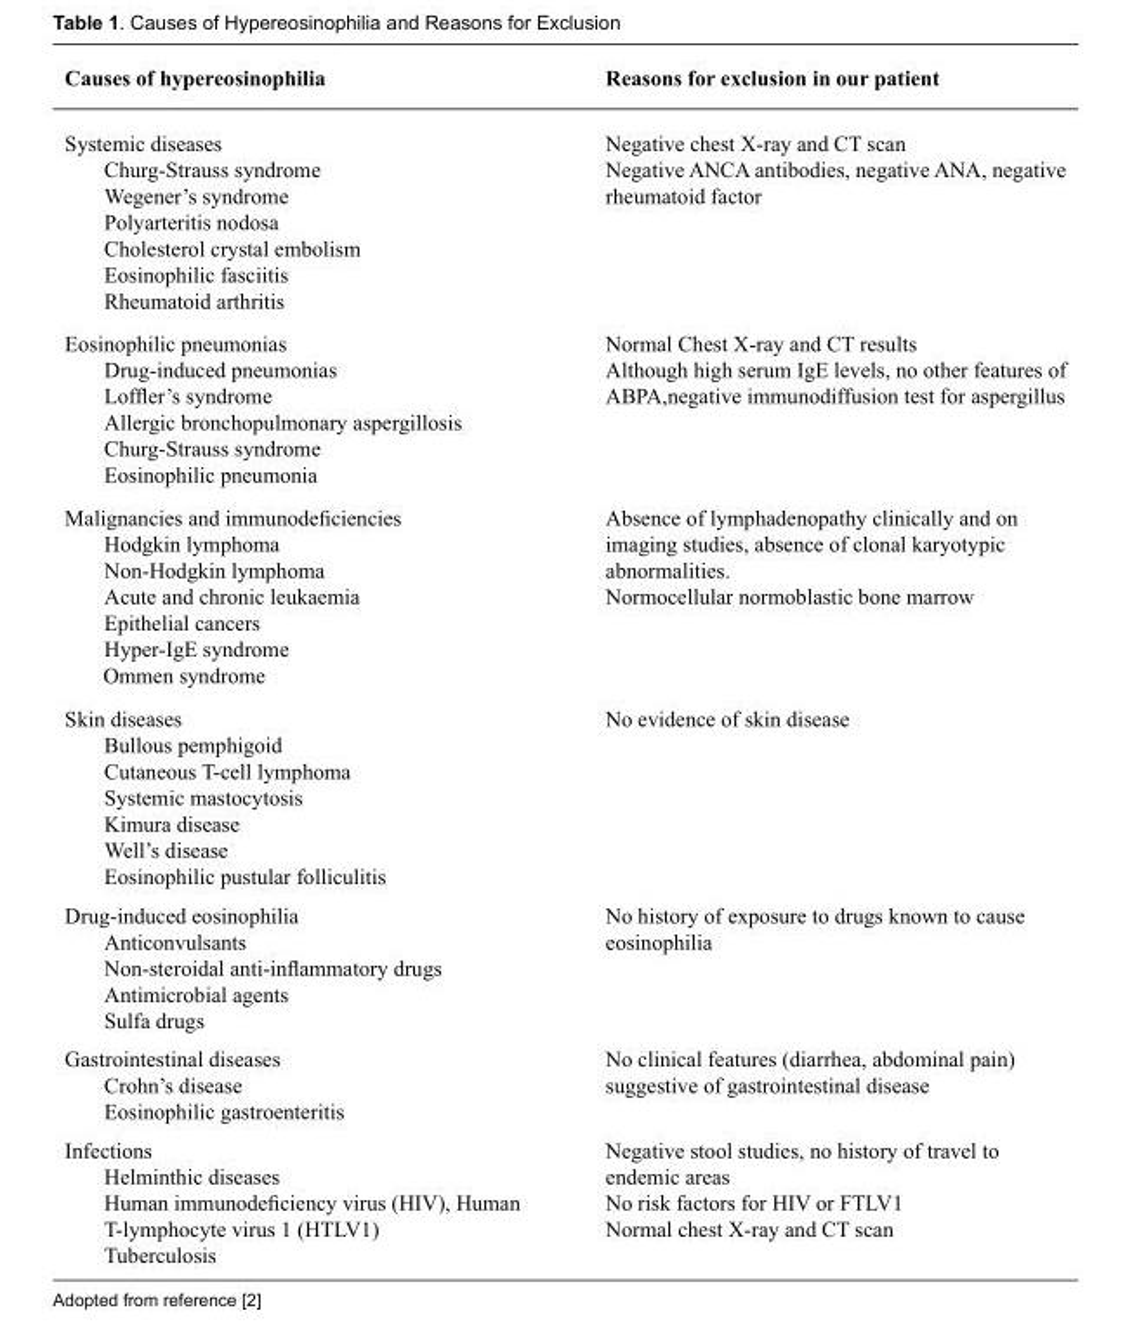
<table><thead><tr><td>Causes of hypereosinophilia</td><td>Reasons for exclusion in our patient</td></tr></thead><tbody><tr><td>Systemic diseases Churg-Strauss syndrome Wegener’s syndrome Polyarteritis nodosa Cholesterol crystal embolism Eosinophilic fasciitis Rheumatoid arthritis</td><td>Negative chest X-ray and CT scan Negative ANCA antibodies, negative ANA, negative rheumatoid factor</td></tr><tr><td>Eosinophilic pneumonias Drug-induced pneumonias Loffler’s syndrome Allergic bronchopulmonary aspergillosis Churg-Strauss syndrome Eosinophilic pneumonia</td><td>Normal Chest X-ray and CT results Although high serum IgE levels, no other features of ABPA,negative immunodiffusion test for aspergillus</td></tr><tr><td>Malignancies and immunodeficiencies Hodgkin lymphoma Non-Hodgkin lymphoma Acute and chronic leukaemia Epithelial cancers Hyper-IgE syndrome Ommen syndrome</td><td>Absence of lymphadenopathy clinically and on imaging studies, absence of clonal karyotypic abnormalities. Normocellular normoblastic bone marrow</td></tr><tr><td>Skin diseases Bullous pemphigoid Cutaneous T-cell lymphoma Systemic mastocytosis Kimura disease Well’s disease Eosinophilic pustular folliculitis</td><td>No evidence of skin disease</td></tr><tr><td>Drug-induced eosinophilia Anticonvulsants Non-steroidal anti-inflammatory drugs Antimicrobial agents Sulfa drugs</td><td>No history of exposure to drugs known to cause eosinophilia</td></tr><tr><td>Gastrointestinal diseases Crohn’s disease Eosinophilic gastroenteritis</td><td>No clinical features (diarrhea, abdominal pain) suggestive of gastrointestinal disease</td></tr><tr><td>Infections Helminthic diseases Human immunodeficiency virus (HIV), Human T-lymphocyte virus 1 (HTLV1) Tuberculosis</td><td>Negative stool studies, no history of travel to endemic areas No risk factors for HIV or FTLV1 Normal chest X-ray and CT scan</td></tr></tbody></table>